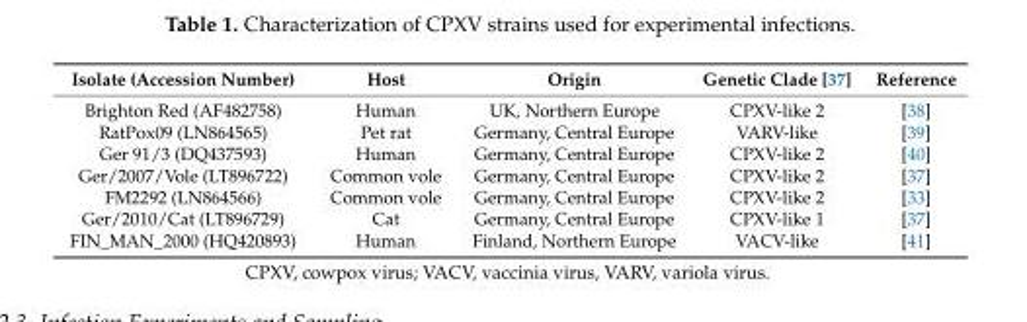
<table><thead><tr><td>Isolate (Accession Number)</td><td>Host</td><td>Origin</td><td>Genetic Clade [37]</td><td>Reference</td></tr></thead><tbody><tr><td>Brighton Red (AF482758)</td><td>Human</td><td>UK, Northern Europe</td><td>CPXV-like 2</td><td>[38]</td></tr><tr><td>RatPox09 (LN864565)</td><td>Pet rat</td><td>Germany, Central Europe</td><td>VARV-like</td><td>[39]</td></tr><tr><td>Ger 91/3 (DQ437593)</td><td>Human</td><td>Germany, Central Europe</td><td>CPXV-like 2</td><td>[40]</td></tr><tr><td>Ger/2007/Vole (LT896722)</td><td>Common vole</td><td>Germany, Central Europe</td><td>CPXV-like 2</td><td>[37]</td></tr><tr><td>FM2292 (LN864566)</td><td>Common vole</td><td>Germany, Central Europe</td><td>CPXV-like 2</td><td>[33]</td></tr><tr><td>Ger/2010/Cat (LT896729)</td><td>Cat</td><td>Germany, Central Europe</td><td>CPXV-like 1</td><td>[37]</td></tr><tr><td>FIN_MAN_2000 (HQ420893)</td><td>Human</td><td>Finland, Northern Europe</td><td>VACV-like</td><td>[41]</td></tr></tbody></table>